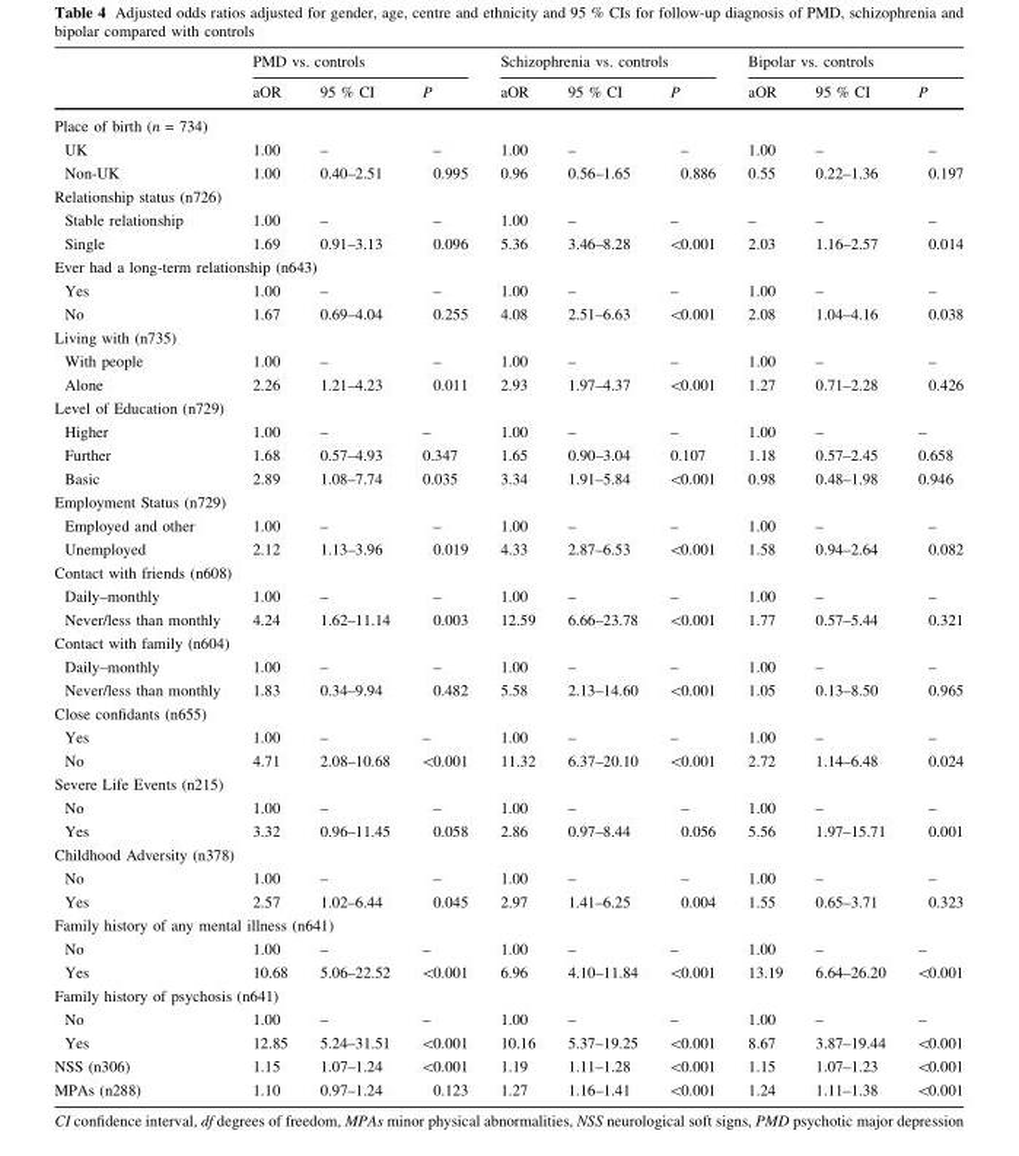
<table><thead><tr><td rowspan="2"></td><td colspan="3">PMD vs. controls</td><td colspan="3">Schizophrenia vs. controls</td><td colspan="3">Bipolar vs. controls</td></tr><tr><td>aOR</td><td>95 % CI</td><td>P</td><td>aOR</td><td>95 % CI</td><td>P</td><td>aOR</td><td>95 % CI</td><td>P</td></tr></thead><tbody><tr><td colspan="10">Place of birth (n = 734)</td></tr><tr><td>UK</td><td>1.00</td><td>–</td><td>–</td><td>1.00</td><td>–</td><td>–</td><td>1.00</td><td>–</td><td>–</td></tr><tr><td>Non-UK</td><td>1.00</td><td>0.40–2.51</td><td>0.995</td><td>0.96</td><td>0.56–1.65</td><td>0.886</td><td>0.55</td><td>0.22–1.36</td><td>0.197</td></tr><tr><td colspan="10">Relationship status (n726)</td></tr><tr><td>Stable relationship</td><td>1.00</td><td>–</td><td>–</td><td>1.00</td><td>–</td><td>–</td><td>–</td><td>–</td><td>–</td></tr><tr><td>Single</td><td>1.69</td><td>0.91–3.13</td><td>0.096</td><td>5.36</td><td>3.46–8.28</td><td>&lt;0.001</td><td>2.03</td><td>1.16–2.57</td><td>0.014</td></tr><tr><td colspan="10">Ever had a long-term relationship (n643)</td></tr><tr><td>Yes</td><td>1.00</td><td>–</td><td>–</td><td>1.00</td><td>–</td><td>–</td><td>1.00</td><td>–</td><td>–</td></tr><tr><td>No</td><td>1.67</td><td>0.69–4.04</td><td>0.255</td><td>4.08</td><td>2.51–6.63</td><td>&lt;0.001</td><td>2.08</td><td>1.04–4.16</td><td>0.038</td></tr><tr><td colspan="10">Living with (n735)</td></tr><tr><td>With people</td><td>1.00</td><td>–</td><td>–</td><td>1.00</td><td>–</td><td>–</td><td>1.00</td><td>–</td><td>–</td></tr><tr><td>Alone</td><td>2.26</td><td>1.21–4.23</td><td>0.011</td><td>2.93</td><td>1.97–4.37</td><td>&lt;0.001</td><td>1.27</td><td>0.71–2.28</td><td>0.426</td></tr><tr><td colspan="10">Level of Education (n729)</td></tr><tr><td>Higher</td><td>1.00</td><td>–</td><td>–</td><td>1.00</td><td>–</td><td>–</td><td>1.00</td><td>–</td><td>–</td></tr><tr><td>Further</td><td>1.68</td><td>0.57–4.93</td><td>0.347</td><td>1.65</td><td>0.90–3.04</td><td>0.107</td><td>1.18</td><td>0.57–2.45</td><td>0.658</td></tr><tr><td>Basic</td><td>2.89</td><td>1.08–7.74</td><td>0.035</td><td>3.34</td><td>1.91–5.84</td><td>&lt;0.001</td><td>0.98</td><td>0.48–1.98</td><td>0.946</td></tr><tr><td colspan="10">Employment Status (n729)</td></tr><tr><td>Employed and other</td><td>1.00</td><td>–</td><td>–</td><td>1.00</td><td>–</td><td>–</td><td>1.00</td><td>–</td><td>–</td></tr><tr><td>Unemployed</td><td>2.12</td><td>1.13–3.96</td><td>0.019</td><td>4.33</td><td>2.87–6.53</td><td>&lt;0.001</td><td>1.58</td><td>0.94–2.64</td><td>0.082</td></tr><tr><td colspan="10">Contact with friends (n608)</td></tr><tr><td>Daily–monthly</td><td>1.00</td><td>–</td><td>–</td><td>1.00</td><td>–</td><td>–</td><td>1.00</td><td>–</td><td>–</td></tr><tr><td>Never/less than monthly</td><td>4.24</td><td>1.62–11.14</td><td>0.003</td><td>12.59</td><td>6.66–23.78</td><td>&lt;0.001</td><td>1.77</td><td>0.57–5.44</td><td>0.321</td></tr><tr><td colspan="10">Contact with family (n604)</td></tr><tr><td>Daily–monthly</td><td>1.00</td><td>–</td><td>–</td><td>1.00</td><td>–</td><td>–</td><td>1.00</td><td>–</td><td>–</td></tr><tr><td>Never/less than monthly</td><td>1.83</td><td>0.34–9.94</td><td>0.482</td><td>5.58</td><td>2.13–14.60</td><td>&lt;0.001</td><td>1.05</td><td>0.13–8.50</td><td>0.965</td></tr><tr><td colspan="10">Close confidants (n655)</td></tr><tr><td>Yes</td><td>1.00</td><td>–</td><td>–</td><td>1.00</td><td>–</td><td>–</td><td>1.00</td><td>–</td><td>–</td></tr><tr><td>No</td><td>4.71</td><td>2.08–10.68</td><td>&lt;0.001</td><td>11.32</td><td>6.37–20.10</td><td>&lt;0.001</td><td>2.72</td><td>1.14–6.48</td><td>0.024</td></tr><tr><td colspan="10">Severe Life Events (n215)</td></tr><tr><td>No</td><td>1.00</td><td>–</td><td>–</td><td>1.00</td><td>–</td><td>–</td><td>1.00</td><td>–</td><td>–</td></tr><tr><td>Yes</td><td>3.32</td><td>0.96–11.45</td><td>0.058</td><td>2.86</td><td>0.97–8.44</td><td>0.056</td><td>5.56</td><td>1.97–15.71</td><td>0.001</td></tr><tr><td colspan="10">Childhood Adversity (n378)</td></tr><tr><td>No</td><td>1.00</td><td>–</td><td>–</td><td>1.00</td><td>–</td><td>–</td><td>1.00</td><td>–</td><td>–</td></tr><tr><td>Yes</td><td>2.57</td><td>1.02–6.44</td><td>0.045</td><td>2.97</td><td>1.41–6.25</td><td>0.004</td><td>1.55</td><td>0.65–3.71</td><td>0.323</td></tr><tr><td colspan="10">Family history of any mental illness (n641)</td></tr><tr><td>No</td><td>1.00</td><td>–</td><td>–</td><td>1.00</td><td>–</td><td>–</td><td>1.00</td><td>–</td><td>–</td></tr><tr><td>Yes</td><td>10.68</td><td>5.06–22.52</td><td>&lt;0.001</td><td>6.96</td><td>4.10–11.84</td><td>&lt;0.001</td><td>13.19</td><td>6.64–26.20</td><td>&lt;0.001</td></tr><tr><td colspan="10">Family history of psychosis (n641)</td></tr><tr><td>No</td><td>1.00</td><td>–</td><td>–</td><td>1.00</td><td>–</td><td>–</td><td>1.00</td><td>–</td><td>–</td></tr><tr><td>Yes</td><td>12.85</td><td>5.24–31.51</td><td>&lt;0.001</td><td>10.16</td><td>5.37–19.25</td><td>&lt;0.001</td><td>8.67</td><td>3.87–19.44</td><td>&lt;0.001</td></tr><tr><td>NSS (n306)</td><td>1.15</td><td>1.07–1.24</td><td>&lt;0.001</td><td>1.19</td><td>1.11–1.28</td><td>&lt;0.001</td><td>1.15</td><td>1.07–1.23</td><td>&lt;0.001</td></tr><tr><td>MPAs (n288)</td><td>1.10</td><td>0.97–1.24</td><td>0.123</td><td>1.27</td><td>1.16–1.41</td><td>&lt;0.001</td><td>1.24</td><td>1.11–1.38</td><td>&lt;0.001</td></tr></tbody></table>